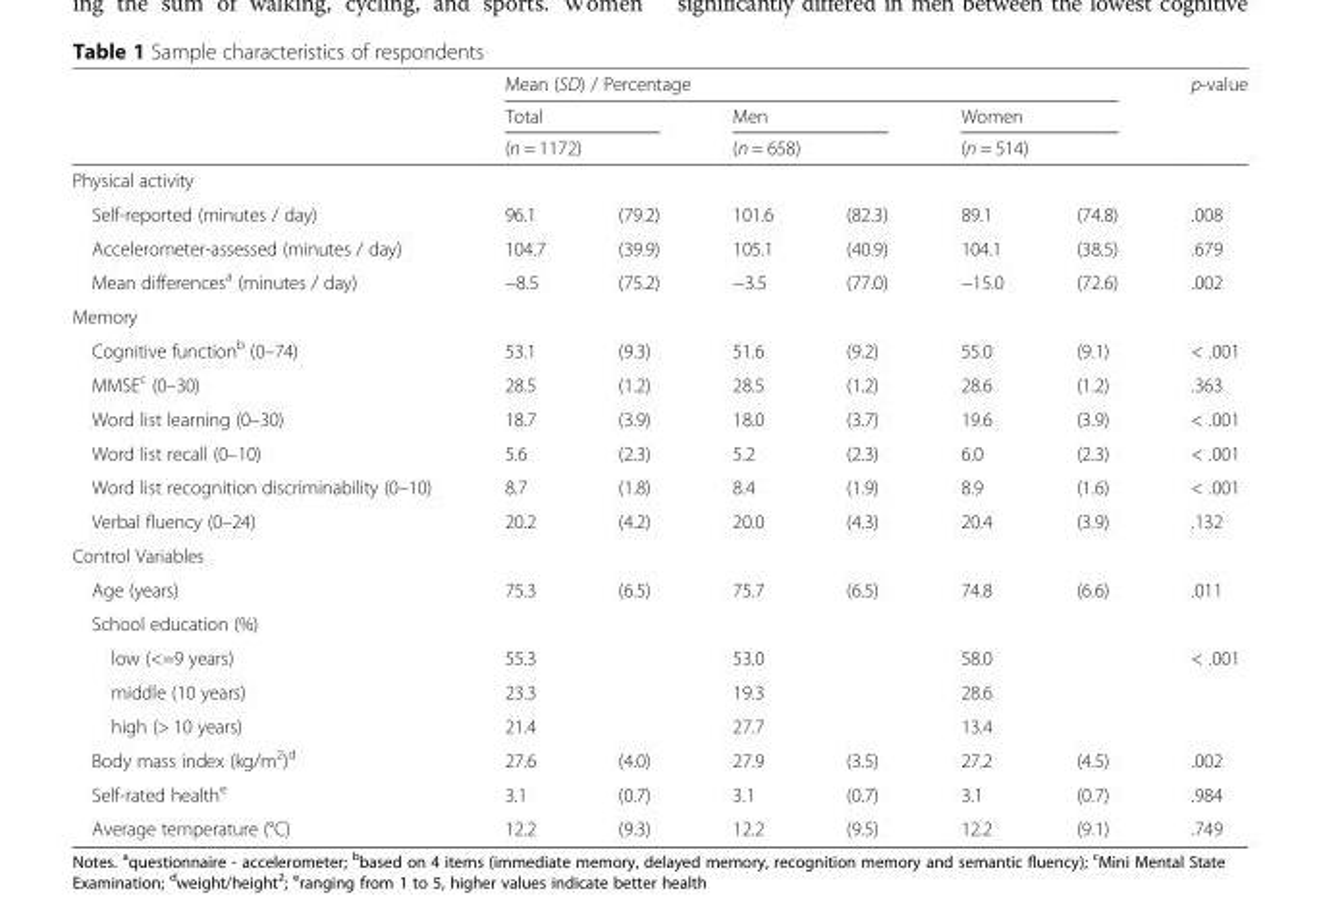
<table><thead><tr><td rowspan="3"></td><td colspan="6">Mean (SD) / Percentage</td><td rowspan="3">p-value</td></tr><tr><td rowspan="2" colspan="2">Total (n = 1172)</td><td rowspan="2" colspan="2">Men (n = 658)</td><td rowspan="2" colspan="2">Women (n = 514)</td></tr><tr></tr><tr><td colspan="8">Physical activity</td></tr><tr><td>Self-reported (minutes / day)</td><td>96.1</td><td>(79.2)</td><td>101.6</td><td>(82.3)</td><td>89.1</td><td>(74.8)</td><td>.008</td></tr></thead><tbody><tr><td>Accelerometer-assessed (minutes / day)</td><td>104.7</td><td>(39.9)</td><td>105.1</td><td>(40.9)</td><td>104.1</td><td>(38.5)</td><td>.679</td></tr><tr><td>Mean differences<sup>a</sup> (minutes / day)</td><td>−8.5</td><td>(75.2)</td><td>−3.5</td><td>(77.0)</td><td>−15.0</td><td>(72.6)</td><td>.002</td></tr><tr><td colspan="8">Memory</td></tr><tr><td>Cognitive function<sup>b</sup> (0–74)</td><td>53.1</td><td>(9.3)</td><td>51.6</td><td>(9.2)</td><td>55.0</td><td>(9.1)</td><td>&lt; .001</td></tr><tr><td>MMSE<sup>c</sup> (0–30)</td><td>28.5</td><td>(1.2)</td><td>28.5</td><td>(1.2)</td><td>28.6</td><td>(1.2)</td><td>.363</td></tr><tr><td>Word list learning (0–30)</td><td>18.7</td><td>(3.9)</td><td>18.0</td><td>(3.7)</td><td>19.6</td><td>(3.9)</td><td>&lt; .001</td></tr><tr><td>Word list recall (0–10)</td><td>5.6</td><td>(2.3)</td><td>5.2</td><td>(2.3)</td><td>6.0</td><td>(2.3)</td><td>&lt; .001</td></tr><tr><td>Word list recognition discriminability (0–10)</td><td>8.7</td><td>(1.8)</td><td>8.4</td><td>(1.9)</td><td>8.9</td><td>(1.6)</td><td>&lt; .001</td></tr><tr><td>Verbal fluency (0–24)</td><td>20.2</td><td>(4.2)</td><td>20.0</td><td>(4.3)</td><td>20.4</td><td>(3.9)</td><td>.132</td></tr><tr><td colspan="8">Control Variables</td></tr><tr><td>Age (years)</td><td>75.3</td><td>(6.5)</td><td>75.7</td><td>(6.5)</td><td>74.8</td><td>(6.6)</td><td>.011</td></tr><tr><td colspan="8">School education (%)</td></tr><tr><td>low (&lt;=9 years)</td><td colspan="2">55.3</td><td colspan="2">53.0</td><td colspan="2">58.0</td><td>&lt; .001</td></tr><tr><td>middle (10 years)</td><td colspan="2">23.3</td><td colspan="2">19.3</td><td colspan="2">28.6</td><td></td></tr><tr><td>high (&gt; 10 years)</td><td colspan="2">21.4</td><td colspan="2">27.7</td><td colspan="2">13.4</td><td></td></tr><tr><td>Body mass index (kg/m<sup>2</sup>)<sup>d</sup></td><td>27.6</td><td>(4.0)</td><td>27.9</td><td>(3.5)</td><td>27.2</td><td>(4.5)</td><td>.002</td></tr><tr><td>Self-rated health<sup>e</sup></td><td>3.1</td><td>(0.7)</td><td>3.1</td><td>(0.7)</td><td>3.1</td><td>(0.7)</td><td>.984</td></tr><tr><td>Average temperature (°C)</td><td>12.2</td><td>(9.3)</td><td>12.2</td><td>(9.5)</td><td>12.2</td><td>(9.1)</td><td>.749</td></tr></tbody></table>